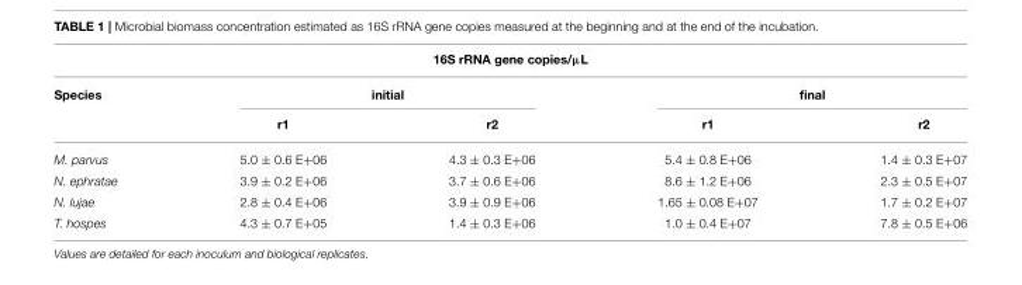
<table><thead><tr><td colspan="5">16S rRNA gene copies/µL</td></tr><tr><td rowspan="2">Species</td><td colspan="2">initial</td><td colspan="2">final</td></tr><tr><td>r1</td><td>r2</td><td>r1</td><td>r2</td></tr></thead><tbody><tr><td>M. parvus</td><td>5.0 ± 0.6 E+06</td><td>4.3 ± 0.3 E+06</td><td>5.4 ± 0.8 E+06</td><td>1.4 ± 0.3 E+07</td></tr><tr><td>N. ephratae</td><td>3.9 ± 0.2 E+06</td><td>3.7 ± 0.6 E+06</td><td>8.6 ± 1.2 E+06</td><td>2.3 ± 0.5 E+07</td></tr><tr><td>N. lujae</td><td>2.8 ± 0.4 E+06</td><td>3.9 ± 0.9 E+06</td><td>1.65 ± 0.08 E+07</td><td>1.7 ± 0.2 E+07</td></tr><tr><td>T. hospes</td><td>4.3 ± 0.7 E+05</td><td>1.4 ± 0.3 E+06</td><td>1.0 ± 0.4 E+07</td><td>7.8 ± 0.5 E+06</td></tr></tbody></table>